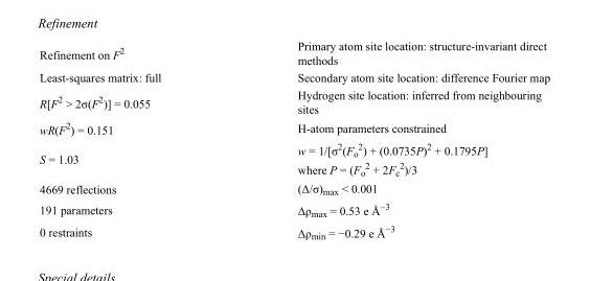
<table><tbody><tr><td>Refinement on F<sup>2</sup></td><td>Primary atom site location: structure-invariant direct methods</td></tr><tr><td>Least-squares matrix: full</td><td>Secondary atom site location: difference Fourier map</td></tr><tr><td>R[F<sup>2</sup> &gt; 2σ(F<sup>2</sup>)] = 0.055</td><td>Hydrogen site location: inferred from neighbouring sites</td></tr><tr><td>wR(F<sup>2</sup>) = 0.151</td><td>H-atom parameters constrained</td></tr><tr><td>S = 1.03</td><td>w = 1/[σ<sup>2</sup>(F<sub>o</sub> <sup>2</sup>) + (0.0735P)<sup>2</sup> + 0.1795P] where P = (F<sub>o</sub> <sup>2</sup> + 2F<sub>c</sub> <sup>2</sup>)/3</td></tr><tr><td>4669 reflections</td><td>(Δ/σ)<sub>max</sub> &lt; 0.001</td></tr><tr><td>191 parameters</td><td>Δρ<sub>max</sub> = 0.53 e Å<sup>−3</sup></td></tr><tr><td>0 restraints</td><td>Δρ<sub>min</sub> = −0.29 e Å<sup>−3</sup></td></tr></tbody></table>